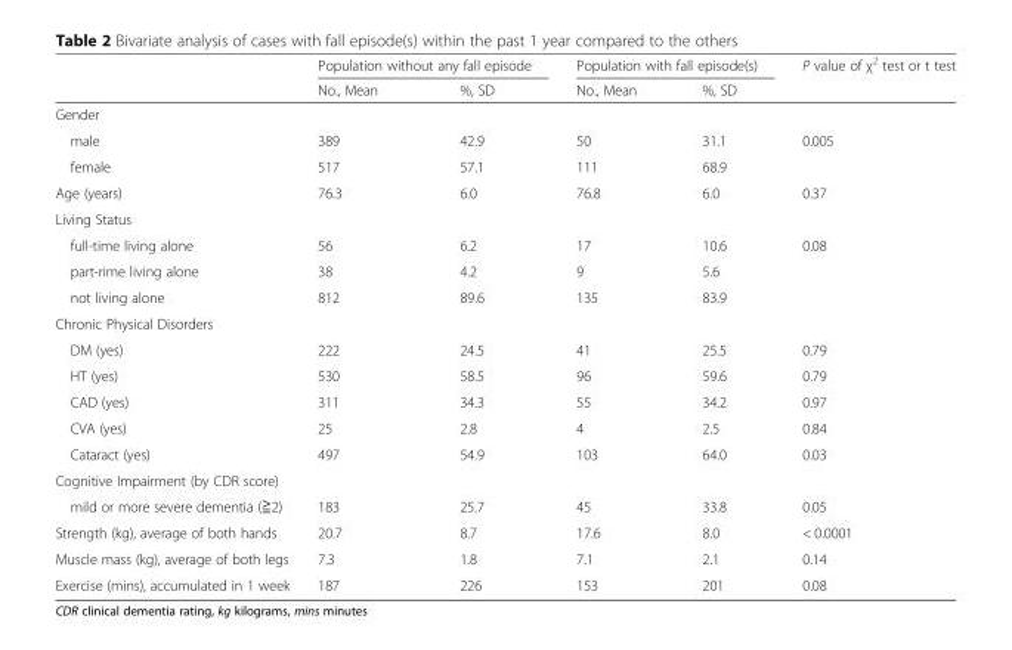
<table><thead><tr><td rowspan="2"></td><td colspan="2">Population without any fall episode</td><td colspan="2">Population with fall episode(s)</td><td rowspan="2">P value of χ<sup>2</sup> test or t test</td></tr><tr><td>No., Mean</td><td>%, SD</td><td>No., Mean</td><td>%, SD</td></tr></thead><tbody><tr><td colspan="6">Gender</td></tr><tr><td>male</td><td>389</td><td>42.9</td><td>50</td><td>31.1</td><td>0.005</td></tr><tr><td>female</td><td>517</td><td>57.1</td><td>111</td><td>68.9</td><td></td></tr><tr><td>Age (years)</td><td>76.3</td><td>6.0</td><td>76.8</td><td>6.0</td><td>0.37</td></tr><tr><td colspan="6">Living Status</td></tr><tr><td>full-time living alone</td><td>56</td><td>6.2</td><td>17</td><td>10.6</td><td>0.08</td></tr><tr><td>part-rime living alone</td><td>38</td><td>4.2</td><td>9</td><td>5.6</td><td></td></tr><tr><td>not living alone</td><td>812</td><td>89.6</td><td>135</td><td>83.9</td><td></td></tr><tr><td colspan="6">Chronic Physical Disorders</td></tr><tr><td>DM (yes)</td><td>222</td><td>24.5</td><td>41</td><td>25.5</td><td>0.79</td></tr><tr><td>HT (yes)</td><td>530</td><td>58.5</td><td>96</td><td>59.6</td><td>0.79</td></tr><tr><td>CAD (yes)</td><td>311</td><td>34.3</td><td>55</td><td>34.2</td><td>0.97</td></tr><tr><td>CVA (yes)</td><td>25</td><td>2.8</td><td>4</td><td>2.5</td><td>0.84</td></tr><tr><td>Cataract (yes)</td><td>497</td><td>54.9</td><td>103</td><td>64.0</td><td>0.03</td></tr><tr><td colspan="6">Cognitive Impairment (by CDR score)</td></tr><tr><td>mild or more severe dementia (≧2)</td><td>183</td><td>25.7</td><td>45</td><td>33.8</td><td>0.05</td></tr><tr><td>Strength (kg), average of both hands</td><td>20.7</td><td>8.7</td><td>17.6</td><td>8.0</td><td>&lt; 0.0001</td></tr><tr><td>Muscle mass (kg), average of both legs</td><td>7.3</td><td>1.8</td><td>7.1</td><td>2.1</td><td>0.14</td></tr><tr><td>Exercise (mins), accumulated in 1 week</td><td>187</td><td>226</td><td>153</td><td>201</td><td>0.08</td></tr></tbody></table>